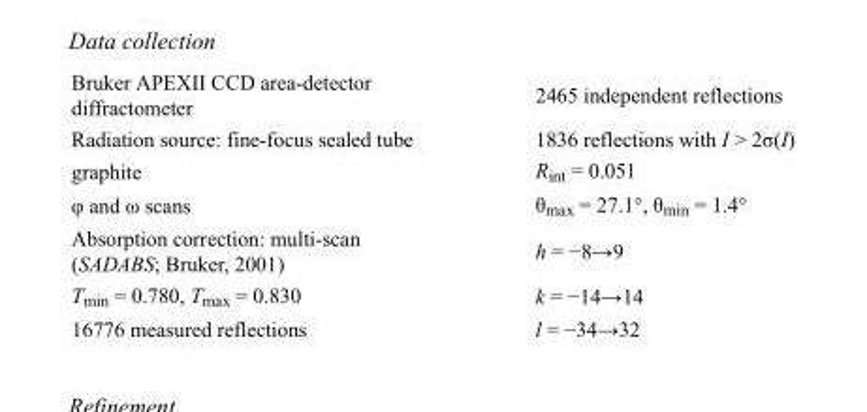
<table><tbody><tr><td>Bruker APEXII CCD area-detector diffractometer</td><td>2465 independent reflections</td></tr><tr><td>Radiation source: fine-focus sealed tube</td><td>1836 reflections with I &gt; 2σ(I)</td></tr><tr><td>graphite</td><td>R<sub>int</sub> = 0.051</td></tr><tr><td>φ and ω scans</td><td>θ<sub>max</sub> = 27.1°, θ<sub>min</sub> = 1.4°</td></tr><tr><td>Absorption correction: multi-scan (SADABS; Bruker, 2001)</td><td>h = −8→9</td></tr><tr><td>T<sub>min</sub> = 0.780, T<sub>max</sub> = 0.830</td><td>k = −14→14</td></tr><tr><td>16776 measured reflections</td><td>l = −34→32</td></tr></tbody></table>